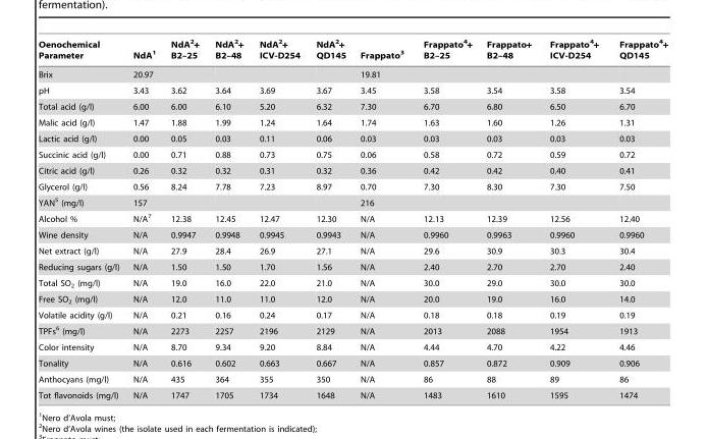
<table><thead><tr><td>Oenochemical Parameter</td><td>NdA<sup>1</sup></td><td>NdA<sup>2</sup>+ B2–25</td><td>NdA<sup>2</sup>+ B2–48</td><td>NdA<sup>2</sup>+ ICV-D254</td><td>NdA<sup>2</sup>+ QD145</td><td>Frappato<sup>3</sup></td><td>Frappato<sup>4</sup>+ B2–25</td><td>Frappato+ B2–48</td><td>Frappato<sup>4</sup>+ ICV-D254</td><td>Frappato<sup>4</sup>+ QD145</td></tr></thead><tbody><tr><td>Brix</td><td>20.97</td><td></td><td></td><td></td><td></td><td>19.81</td><td></td><td></td><td></td><td></td></tr><tr><td>pH</td><td>3.43</td><td>3.62</td><td>3.64</td><td>3.69</td><td>3.67</td><td>3.45</td><td>3.58</td><td>3.54</td><td>3.58</td><td>3.54</td></tr><tr><td>Total acid (g/l)</td><td>6.00</td><td>6.00</td><td>6.10</td><td>5.20</td><td>6.32</td><td>7.30</td><td>6.70</td><td>6.80</td><td>6.50</td><td>6.70</td></tr><tr><td>Malic acid (g/l)</td><td>1.47</td><td>1.88</td><td>1.99</td><td>1.24</td><td>1.64</td><td>1.74</td><td>1.63</td><td>1.60</td><td>1.26</td><td>1.31</td></tr><tr><td>Lactic acid (g/l)</td><td>0.00</td><td>0.05</td><td>0.03</td><td>0.11</td><td>0.06</td><td>0.03</td><td>0.03</td><td>0.03</td><td>0.03</td><td>0.03</td></tr><tr><td>Succinic acid (g/l)</td><td>0.00</td><td>0.71</td><td>0.88</td><td>0.73</td><td>0.75</td><td>0.06</td><td>0.58</td><td>0.72</td><td>0.59</td><td>0.72</td></tr><tr><td>Citric acid (g/l)</td><td>0.26</td><td>0.32</td><td>0.32</td><td>0.31</td><td>0.32</td><td>0.36</td><td>0.42</td><td>0.42</td><td>0.40</td><td>0.41</td></tr><tr><td>Glycerol (g/l)</td><td>0.56</td><td>8.24</td><td>7.78</td><td>7.23</td><td>8.97</td><td>0.70</td><td>7.30</td><td>8.30</td><td>7.30</td><td>7.50</td></tr><tr><td>YAN<sup>5</sup> (mg/l)</td><td>157</td><td></td><td></td><td></td><td></td><td>216</td><td></td><td></td><td></td><td></td></tr><tr><td>Alcohol %</td><td>N/A<sup>7</sup></td><td>12.38</td><td>12.45</td><td>12.47</td><td>12.30</td><td>N/A</td><td>12.13</td><td>12.39</td><td>12.56</td><td>12.40</td></tr><tr><td>Wine density</td><td>N/A</td><td>0.9947</td><td>0.9948</td><td>0.9945</td><td>0.9943</td><td>N/A</td><td>0.9960</td><td>0.9963</td><td>0.9960</td><td>0.9960</td></tr><tr><td>Net extract (g/l)</td><td>N/A</td><td>27.9</td><td>28.4</td><td>26.9</td><td>27.1</td><td>N/A</td><td>29.6</td><td>30.9</td><td>30.3</td><td>30.4</td></tr><tr><td>Reducing sugars (g/l)</td><td>N/A</td><td>1.50</td><td>1.50</td><td>1.70</td><td>1.56</td><td>N/A</td><td>2.40</td><td>2.70</td><td>2.70</td><td>2.40</td></tr><tr><td>Total SO<sub>2</sub> (mg/l)</td><td>N/A</td><td>19.0</td><td>16.0</td><td>22.0</td><td>21.0</td><td>N/A</td><td>30.0</td><td>29.0</td><td>30.0</td><td>30.0</td></tr><tr><td>Free SO<sub>2</sub> (mg/l)</td><td>N/A</td><td>12.0</td><td>11.0</td><td>11.0</td><td>12.0</td><td>N/A</td><td>20.0</td><td>19.0</td><td>16.0</td><td>14.0</td></tr><tr><td>Volatile acidity (g/l)</td><td>N/A</td><td>0.21</td><td>0.16</td><td>0.24</td><td>0.17</td><td>N/A</td><td>0.18</td><td>0.18</td><td>0.19</td><td>0.19</td></tr><tr><td>TPFs<sup>6</sup> (mg/l)</td><td>N/A</td><td>2273</td><td>2257</td><td>2196</td><td>2129</td><td>N/A</td><td>2013</td><td>2088</td><td>1954</td><td>1913</td></tr><tr><td>Color intensity</td><td>N/A</td><td>8.70</td><td>9.34</td><td>9.20</td><td>8.84</td><td>N/A</td><td>4.44</td><td>4.70</td><td>4.22</td><td>4.46</td></tr><tr><td>Tonality</td><td>N/A</td><td>0.616</td><td>0.602</td><td>0.663</td><td>0.667</td><td>N/A</td><td>0.857</td><td>0.872</td><td>0.909</td><td>0.906</td></tr><tr><td>Anthocyans (mg/l)</td><td>N/A</td><td>435</td><td>364</td><td>355</td><td>350</td><td>N/A</td><td>86</td><td>88</td><td>89</td><td>86</td></tr><tr><td>Tot flavonoids (mg/l)</td><td>N/A</td><td>1747</td><td>1705</td><td>1734</td><td>1648</td><td>N/A</td><td>1483</td><td>1610</td><td>1595</td><td>1474</td></tr></tbody></table>